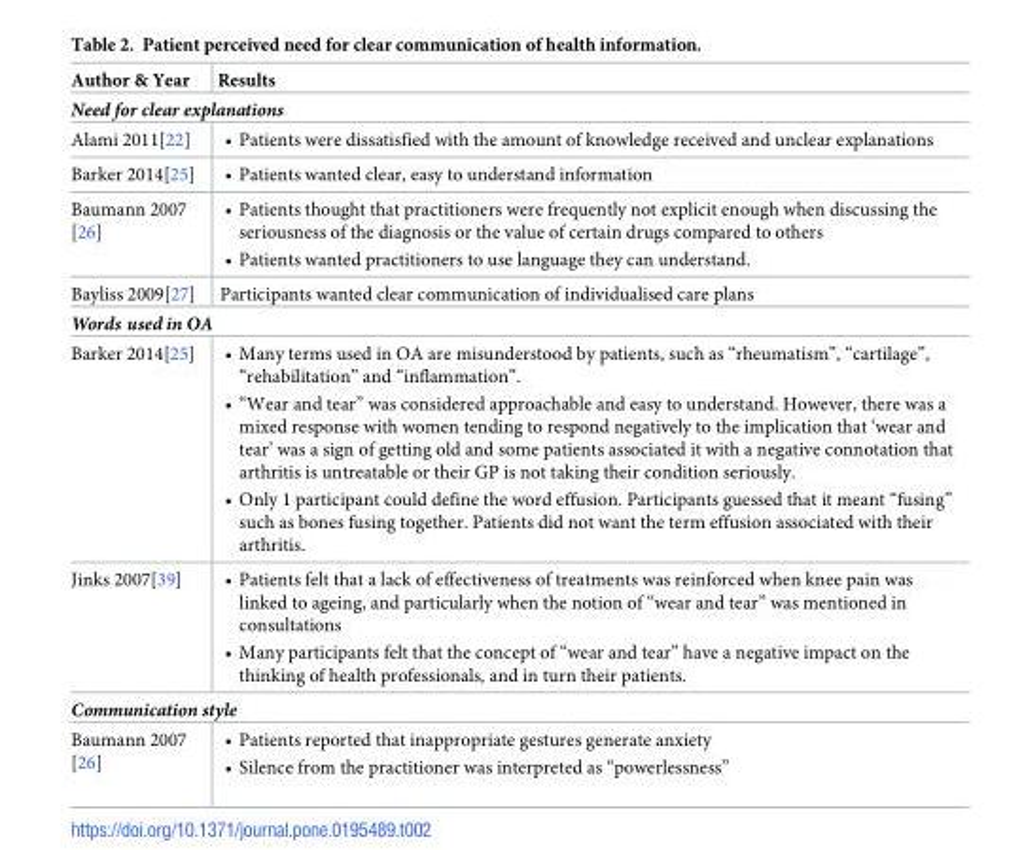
<table><thead><tr><td>Author &amp; Year</td><td>Results</td></tr></thead><tbody><tr><td colspan="2">Need for clear explanations</td></tr><tr><td>Alami 2011[22]</td><td>• Patients were dissatisfied with the amount of knowledge received and unclear explanations</td></tr><tr><td>Barker 2014[25]</td><td>• Patients wanted clear, easy to understand information</td></tr><tr><td>Baumann 2007 [26]</td><td>• Patients thought that practitioners were frequently not explicit enough when discussing the seriousness of the diagnosis or the value of certain drugs compared to others • Patients wanted practitioners to use language they can understand.</td></tr><tr><td>Bayliss 2009[27]</td><td>Participants wanted clear communication of individualised care plans</td></tr><tr><td colspan="2">Words used in OA</td></tr><tr><td>Barker 2014[25]</td><td>• Many terms used in OA are misunderstood by patients, such as “rheumatism”, “cartilage”, “rehabilitation” and “inflammation”. • “Wear and tear” was considered approachable and easy to understand. However, there was a mixed response with women tending to respond negatively to the implication that ‘wear and tear’ was a sign of getting old and some patients associated it with a negative connotation that arthritis is untreatable or their GP is not taking their condition seriously. • Only 1 participant could define the word effusion. Participants guessed that it meant “fusing” such as bones fusing together. Patients did not want the term effusion associated with their arthritis.</td></tr><tr><td>Jinks 2007[39]</td><td>• Patients felt that a lack of effectiveness of treatments was reinforced when knee pain was linked to ageing, and particularly when the notion of “wear and tear” was mentioned in consultations • Many participants felt that the concept of “wear and tear” have a negative impact on the thinking of health professionals, and in turn their patients.</td></tr><tr><td colspan="2">Communication style</td></tr><tr><td>Baumann 2007 [26]</td><td>• Patients reported that inappropriate gestures generate anxiety • Silence from the practitioner was interpreted as “powerlessness”</td></tr></tbody></table>